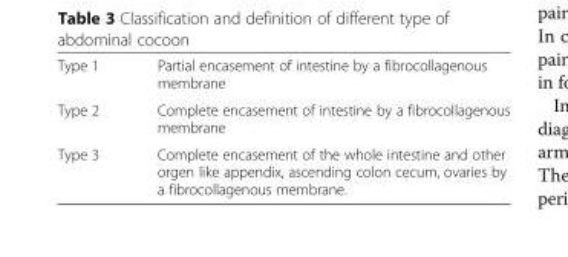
<table><tbody><tr><td>Type 1</td><td>Partial encasement of intestine by a fibrocollagenous membrane</td></tr><tr><td>Type 2</td><td>Complete encasement of intestine by a fibrocollagenous membrane</td></tr><tr><td>Type 3</td><td>Complete encasement of the whole intestine and other orgen like appendix, ascending colon cecum, ovaries by a fibrocollagenous membrane.</td></tr></tbody></table>